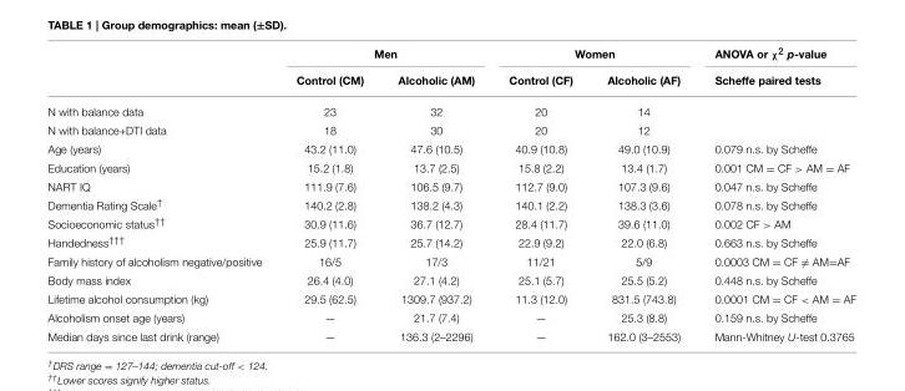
<table><thead><tr><td rowspan="2"></td><td colspan="2">Men</td><td colspan="2">Women</td><td rowspan="2">ANOVA or χ<sup>2</sup> p-value Scheffe paired tests</td></tr><tr><td>Control (CM)</td><td>Alcoholic (AM)</td><td>Control (CF)</td><td>Alcoholic (AF)</td></tr></thead><tbody><tr><td>N with balance data</td><td>23</td><td>32</td><td>20</td><td>14</td><td></td></tr><tr><td>N with balance+DTI data</td><td>18</td><td>30</td><td>20</td><td>12</td><td></td></tr><tr><td>Age (years)</td><td>43.2 (11.0)</td><td>47.6 (10.5)</td><td>40.9 (10.8)</td><td>49.0 (10.9)</td><td>0.079 n.s. by Scheffe</td></tr><tr><td>Education (years)</td><td>15.2 (1.8)</td><td>13.7 (2.5)</td><td>15.8 (2.2)</td><td>13.4 (1.7)</td><td>0.001 CM = CF &gt; AM = AF</td></tr><tr><td>NART IQ</td><td>111.9 (7.6)</td><td>106.5 (9.7)</td><td>112.7 (9.0)</td><td>107.3 (9.6)</td><td>0.047 n.s. by Scheffe</td></tr><tr><td>Dementia Rating Scale<sup>†</sup></td><td>140.2 (2.8)</td><td>138.2 (4.3)</td><td>140.1 (2.2)</td><td>138.3 (3.6)</td><td>0.078 n.s. by Scheffe</td></tr><tr><td>Socioeconomic status<sup>††</sup></td><td>30.9 (11.6)</td><td>36.7 (12.7)</td><td>28.4 (11.7)</td><td>39.6 (11.0)</td><td>0.002 CF &gt; AM</td></tr><tr><td>Handedness<sup>†††</sup></td><td>25.9 (11.7)</td><td>25.7 (14.2)</td><td>22.9 (9.2)</td><td>22.0 (6.8)</td><td>0.663 n.s. by Scheffe</td></tr><tr><td>Family history of alcoholism negative/positive</td><td>16/5</td><td>17/3</td><td>11/21</td><td>5/9</td><td>0.0003 CM = CF ̸= AM=AF</td></tr><tr><td>Body mass index</td><td>26.4 (4.0)</td><td>27.1 (4.2)</td><td>25.1 (5.7)</td><td>25.5 (5.2)</td><td>0.448 n.s. by Scheffe</td></tr><tr><td>Lifetime alcohol consumption (kg)</td><td>29.5 (62.5)</td><td>1309.7 (937.2)</td><td>11.3 (12.0)</td><td>831.5 (743.8)</td><td>0.0001 CM = CF &lt; AM = AF</td></tr><tr><td>Alcoholism onset age (years)</td><td>—</td><td>21.7 (7.4)</td><td>—</td><td>25.3 (8.8)</td><td>0.159 n.s. by Scheffe</td></tr><tr><td>Median days since last drink (range)</td><td>—</td><td>136.3 (2–2296)</td><td>—</td><td>162.0 (3–2553)</td><td>Mann-Whitney U-test 0.3765</td></tr></tbody></table>